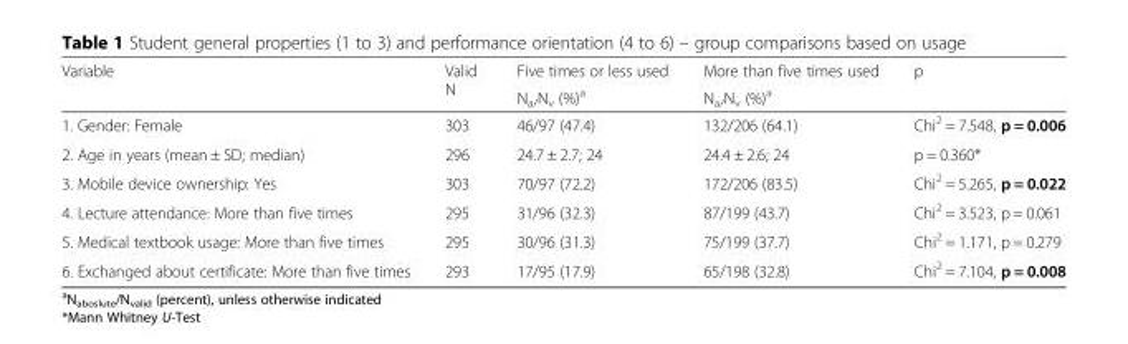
<table><thead><tr><td rowspan="2">Variable</td><td rowspan="2">Valid N</td><td rowspan="2">Five times or less used N<sub>a/</sub>N<sub>v</sub> (%)<sup>a</sup></td><td rowspan="2">More than five times used N<sub>a/</sub>N<sub>v</sub> (%)<sup>a</sup></td><td rowspan="2">p</td></tr><tr></tr></thead><tbody><tr><td>1. Gender: Female</td><td>303</td><td>46/97 (47.4)</td><td>132/206 (64.1)</td><td>Chi<sup>2</sup> = 7.548, p = 0.006</td></tr><tr><td>2. Age in years (mean ± SD; median)</td><td>296</td><td>24.7 ± 2.7; 24</td><td>24.4 ± 2.6; 24</td><td>p = 0.360*</td></tr><tr><td>3. Mobile device ownership: Yes</td><td>303</td><td>70/97 (72.2)</td><td>172/206 (83.5)</td><td>Chi<sup>2</sup> = 5.265, p = 0.022</td></tr><tr><td>4. Lecture attendance: More than five times</td><td>295</td><td>31/96 (32.3)</td><td>87/199 (43.7)</td><td>Chi<sup>2</sup> = 3.523, p = 0.061</td></tr><tr><td>5. Medical textbook usage: More than five times</td><td>295</td><td>30/96 (31.3)</td><td>75/199 (37.7)</td><td>Chi<sup>2</sup> = 1.171, p = 0.279</td></tr><tr><td>6. Exchanged about certificate: More than five times</td><td>293</td><td>17/95 (17.9)</td><td>65/198 (32.8)</td><td>Chi<sup>2</sup> = 7.104, p = 0.008</td></tr></tbody></table>